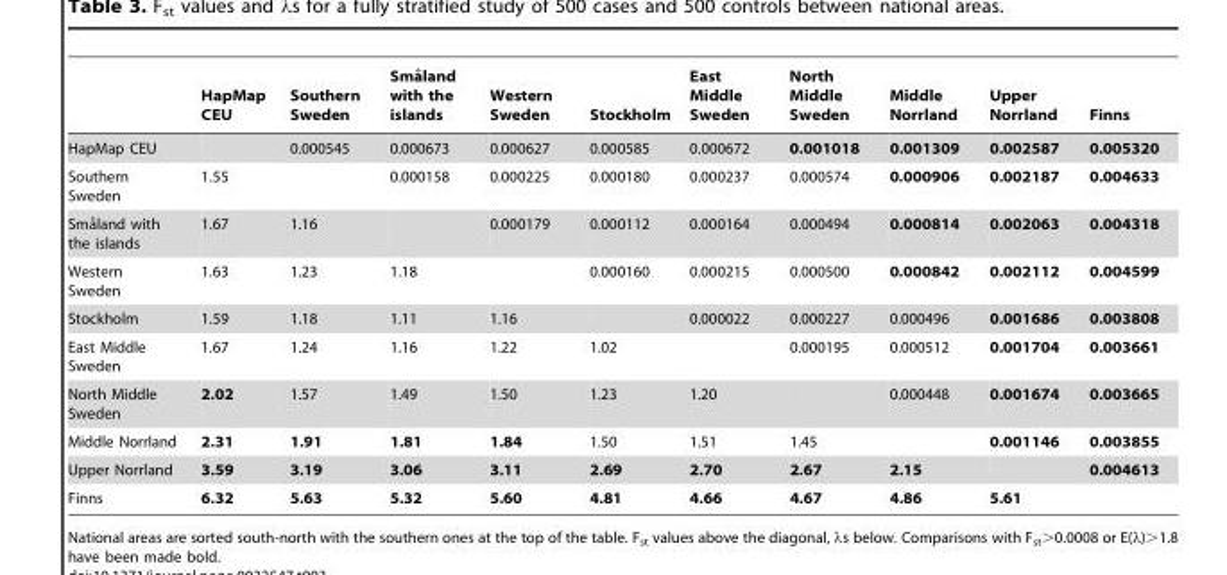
<table><thead><tr><td></td><td>HapMap CEU</td><td>Southern Sweden</td><td>Sma˚land with the islands</td><td>Western Sweden</td><td>Stockholm</td><td>East Middle Sweden</td><td>North Middle Sweden</td><td>Middle Norrland</td><td>Upper Norrland</td><td>Finns</td></tr></thead><tbody><tr><td>HapMap CEU</td><td></td><td>0.000545</td><td>0.000673</td><td>0.000627</td><td>0.000585</td><td>0.000672</td><td>0.001018</td><td>0.001309</td><td>0.002587</td><td>0.005320</td></tr><tr><td>Southern Sweden</td><td>1.55</td><td></td><td>0.000158</td><td>0.000225</td><td>0.000180</td><td>0.000237</td><td>0.000574</td><td>0.000906</td><td>0.002187</td><td>0.004633</td></tr><tr><td>Sma˚land with the islands</td><td>1.67</td><td>1.16</td><td></td><td>0.000179</td><td>0.000112</td><td>0.000164</td><td>0.000494</td><td>0.000814</td><td>0.002063</td><td>0.004318</td></tr><tr><td>Western Sweden</td><td>1.63</td><td>1.23</td><td>1.18</td><td></td><td>0.000160</td><td>0.000215</td><td>0.000500</td><td>0.000842</td><td>0.002112</td><td>0.004599</td></tr><tr><td>Stockholm</td><td>1.59</td><td>1.18</td><td>1.11</td><td>1.16</td><td></td><td>0.000022</td><td>0.000227</td><td>0.000496</td><td>0.001686</td><td>0.003808</td></tr><tr><td>East Middle Sweden</td><td>1.67</td><td>1.24</td><td>1.16</td><td>1.22</td><td>1.02</td><td></td><td>0.000195</td><td>0.000512</td><td>0.001704</td><td>0.003661</td></tr><tr><td>North Middle Sweden</td><td>2.02</td><td>1.57</td><td>1.49</td><td>1.50</td><td>1.23</td><td>1.20</td><td></td><td>0.000448</td><td>0.001674</td><td>0.003665</td></tr><tr><td>Middle Norrland</td><td>2.31</td><td>1.91</td><td>1.81</td><td>1.84</td><td>1.50</td><td>1.51</td><td>1.45</td><td></td><td>0.001146</td><td>0.003855</td></tr><tr><td>Upper Norrland</td><td>3.59</td><td>3.19</td><td>3.06</td><td>3.11</td><td>2.69</td><td>2.70</td><td>2.67</td><td>2.15</td><td></td><td>0.004613</td></tr><tr><td>Finns</td><td>6.32</td><td>5.63</td><td>5.32</td><td>5.60</td><td>4.81</td><td>4.66</td><td>4.67</td><td>4.86</td><td>5.61</td><td></td></tr></tbody></table>